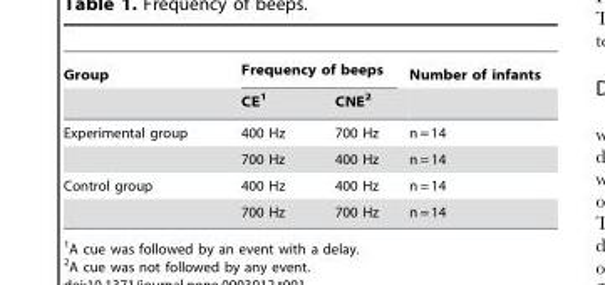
<table><thead><tr><td rowspan="2">Group</td><td colspan="2">Frequency of beeps</td><td rowspan="2">Number of infants</td></tr><tr><td>CE<sup>1</sup></td><td>CNE<sup>2</sup></td></tr></thead><tbody><tr><td rowspan="2">Experimental group</td><td>400 Hz</td><td>700 Hz</td><td>n = 14</td></tr><tr><td>700 Hz</td><td>400 Hz</td><td>n = 14</td></tr><tr><td rowspan="2">Control group</td><td>400 Hz</td><td>400 Hz</td><td>n = 14</td></tr><tr><td>700 Hz</td><td>700 Hz</td><td>n = 14</td></tr></tbody></table>